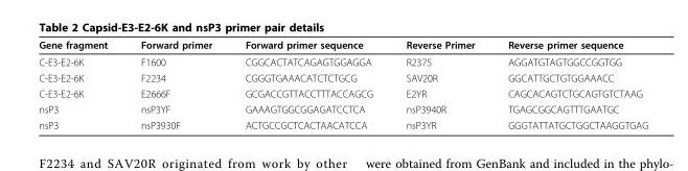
<table><thead><tr><td>Gene fragment</td><td>Forward primer</td><td>Forward primer sequence</td><td>Reverse Primer</td><td>Reverse primer sequence</td></tr></thead><tbody><tr><td>C-E3-E2-6K</td><td>F1600</td><td>CGGCACTATCAGAGTGGAGGA</td><td>R2375</td><td>AGGATGTAGTGGCCGGTGG</td></tr><tr><td>C-E3-E2-6K</td><td>F2234</td><td>CGGGTGAAACATCTCTGCG</td><td>SAV20R</td><td>GGCATTGCTGTGGAAACC</td></tr><tr><td>C-E3-E2-6K</td><td>E2666F</td><td>GCGACCGTTACCTTTACCAGCG</td><td>E2YR</td><td>CAGCACAGTCTGCAGTGTCTAAG</td></tr><tr><td>nsP3</td><td>nsP3YF</td><td>GAAAGTGGCGGAGATCCTCA</td><td>nsP3940R</td><td>TGAGCGGCAGTTTGAATGC</td></tr><tr><td>nsP3</td><td>nsP3930F</td><td>ACTGCCGCTCACTAACATCCA</td><td>nsP3YR</td><td>GGGTATTATGCTGGCTAAGGTGAG</td></tr></tbody></table>